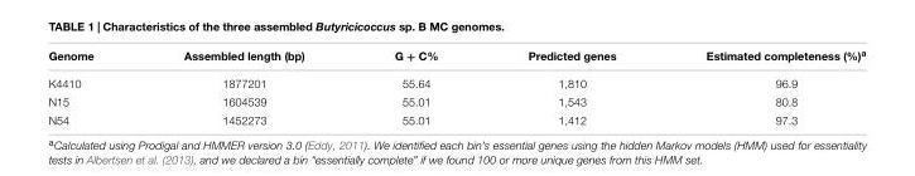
<table><thead><tr><td>Genome</td><td>Assembled length (bp)</td><td>G + C%</td><td>Predicted genes</td><td>Estimated completeness (%)<sup>a</sup></td></tr></thead><tbody><tr><td>K4410</td><td>1877201</td><td>55.64</td><td>1,810</td><td>96.9</td></tr><tr><td>N15</td><td>1604539</td><td>55.01</td><td>1,543</td><td>80.8</td></tr><tr><td>N54</td><td>1452273</td><td>55.01</td><td>1,412</td><td>97.3</td></tr></tbody></table>